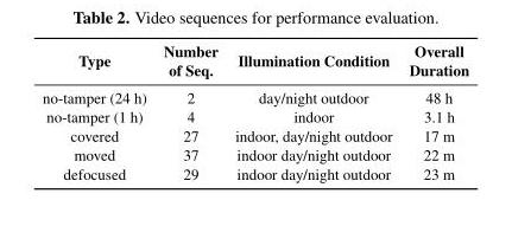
<table><thead><tr><td>Type</td><td>Number of Seq.</td><td>Illumination Condition</td><td>Overall Duration</td></tr></thead><tbody><tr><td>no-tamper (24 h)</td><td>2</td><td>day/night outdoor</td><td>48 h</td></tr><tr><td>no-tamper (1 h)</td><td>4</td><td>indoor</td><td>3.1 h</td></tr><tr><td>covered</td><td>27</td><td>indoor, day/night outdoor</td><td>17 m</td></tr><tr><td>moved</td><td>37</td><td>indoor day/night outdoor</td><td>22 m</td></tr><tr><td>defocused</td><td>29</td><td>indoor day/night outdoor</td><td>23 m</td></tr></tbody></table>